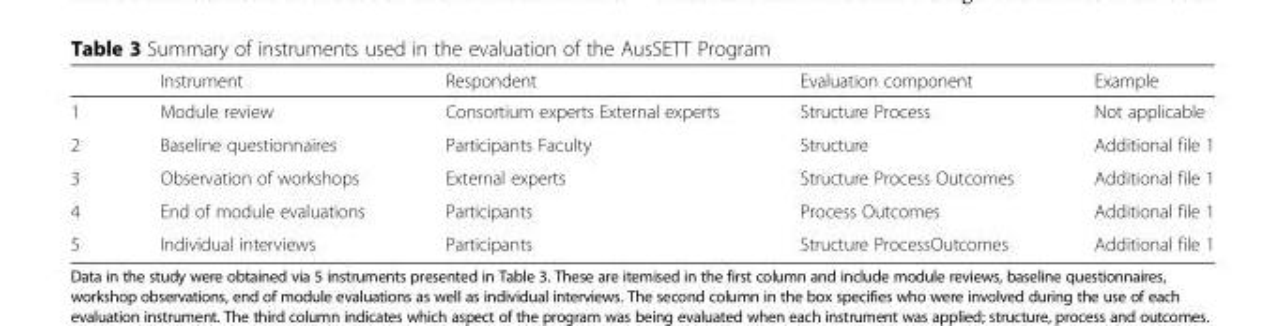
<table><thead><tr><td></td><td>Instrument</td><td>Respondent</td><td>Evaluation component</td><td>Example</td></tr></thead><tbody><tr><td>1</td><td>Module review</td><td>Consortium experts External experts</td><td>Structure Process</td><td>Not applicable</td></tr><tr><td>2</td><td>Baseline questionnaires</td><td>Participants Faculty</td><td>Structure</td><td>Additional file 1</td></tr><tr><td>3</td><td>Observation of workshops</td><td>External experts</td><td>Structure Process Outcomes</td><td>Additional file 1</td></tr><tr><td>4</td><td>End of module evaluations</td><td>Participants</td><td>Process Outcomes</td><td>Additional file 1</td></tr><tr><td>5</td><td>Individual interviews</td><td>Participants</td><td>Structure ProcessOutcomes</td><td>Additional file 1</td></tr></tbody></table>